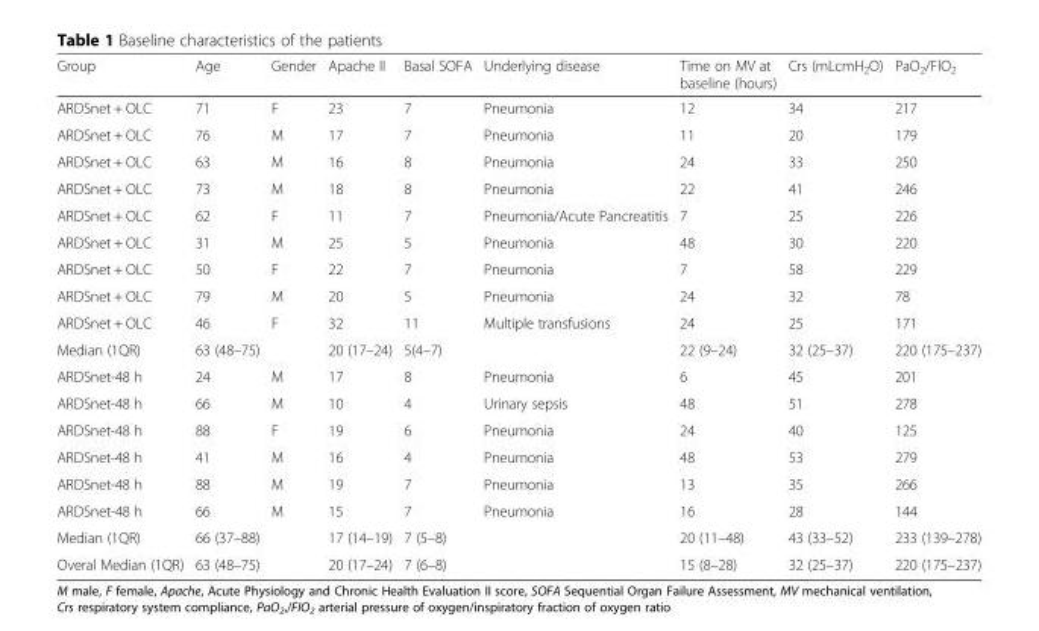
<table><thead><tr><td>Group</td><td>Age</td><td>Gender</td><td>Apache II</td><td>Basal SOFA</td><td>Underlying disease</td><td>Time on MV at baseline (hours)</td><td>Crs (mLcmH<sub>2</sub>O)</td><td>PaO<sub>2</sub>/FlO<sub>2</sub></td></tr></thead><tbody><tr><td>ARDSnet + OLC</td><td>71</td><td>F</td><td>23</td><td>7</td><td>Pneumonia</td><td>12</td><td>34</td><td>217</td></tr><tr><td>ARDSnet + OLC</td><td>76</td><td>M</td><td>17</td><td>7</td><td>Pneumonia</td><td>11</td><td>20</td><td>179</td></tr><tr><td>ARDSnet + OLC</td><td>63</td><td>M</td><td>16</td><td>8</td><td>Pneumonia</td><td>24</td><td>33</td><td>250</td></tr><tr><td>ARDSnet + OLC</td><td>73</td><td>M</td><td>18</td><td>8</td><td>Pneumonia</td><td>22</td><td>41</td><td>246</td></tr><tr><td>ARDSnet + OLC</td><td>62</td><td>F</td><td>11</td><td>7</td><td>Pneumonia/Acute Pancreatitis</td><td>7</td><td>25</td><td>226</td></tr><tr><td>ARDSnet + OLC</td><td>31</td><td>M</td><td>25</td><td>5</td><td>Pneumonia</td><td>48</td><td>30</td><td>220</td></tr><tr><td>ARDSnet + OLC</td><td>50</td><td>F</td><td>22</td><td>7</td><td>Pneumonia</td><td>7</td><td>58</td><td>229</td></tr><tr><td>ARDSnet + OLC</td><td>79</td><td>M</td><td>20</td><td>5</td><td>Pneumonia</td><td>24</td><td>32</td><td>78</td></tr><tr><td>ARDSnet + OLC</td><td>46</td><td>F</td><td>32</td><td>11</td><td>Multiple transfusions</td><td>24</td><td>25</td><td>171</td></tr><tr><td>Median (1QR)</td><td>63 (48–75)</td><td></td><td>20 (17–24)</td><td>5(4–7)</td><td></td><td>22 (9–24)</td><td>32 (25–37)</td><td>220 (175–237)</td></tr><tr><td>ARDSnet-48 h</td><td>24</td><td>M</td><td>17</td><td>8</td><td>Pneumonia</td><td>6</td><td>45</td><td>201</td></tr><tr><td>ARDSnet-48 h</td><td>66</td><td>M</td><td>10</td><td>4</td><td>Urinary sepsis</td><td>48</td><td>51</td><td>278</td></tr><tr><td>ARDSnet-48 h</td><td>88</td><td>F</td><td>19</td><td>6</td><td>Pneumonia</td><td>24</td><td>40</td><td>125</td></tr><tr><td>ARDSnet-48 h</td><td>41</td><td>M</td><td>16</td><td>4</td><td>Pneumonia</td><td>48</td><td>53</td><td>279</td></tr><tr><td>ARDSnet-48 h</td><td>88</td><td>M</td><td>19</td><td>7</td><td>Pneumonia</td><td>13</td><td>35</td><td>266</td></tr><tr><td>ARDSnet-48 h</td><td>66</td><td>M</td><td>15</td><td>7</td><td>Pneumonia</td><td>16</td><td>28</td><td>144</td></tr><tr><td>Median (1QR)</td><td>66 (37–88)</td><td></td><td>17 (14–19)</td><td>7 (5–8)</td><td></td><td>20 (11–48)</td><td>43 (33–52)</td><td>233 (139–278)</td></tr><tr><td>Overal Median (1QR)</td><td>63 (48–75)</td><td></td><td>20 (17–24)</td><td>7 (6–8)</td><td></td><td>15 (8–28)</td><td>32 (25–37)</td><td>220 (175–237)</td></tr></tbody></table>